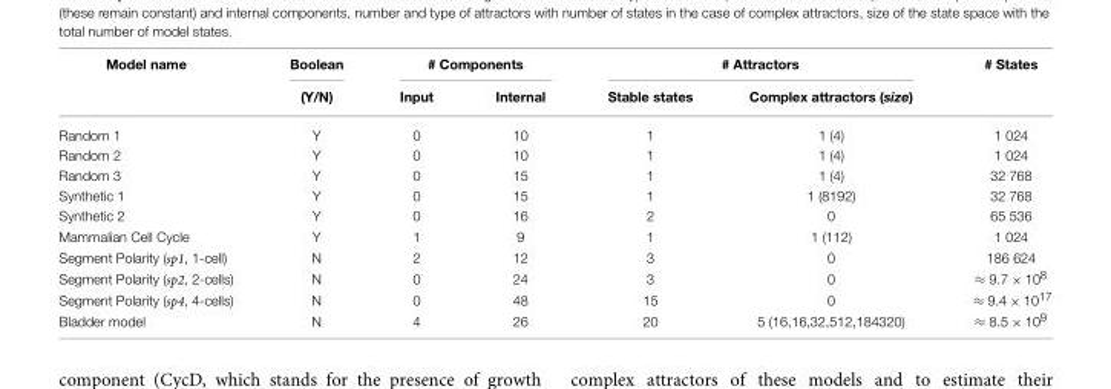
<table><thead><tr><td rowspan="2">Model name</td><td rowspan="2">Boolean (Y/N)</td><td colspan="2"># Components</td><td colspan="2"># Attractors</td><td rowspan="2"># States</td></tr><tr><td>Input</td><td>Internal</td><td>Stable states</td><td>Complex attractors (size)</td></tr></thead><tbody><tr><td>Random 1</td><td>Y</td><td>0</td><td>10</td><td>1</td><td>1 (4)</td><td>1 024</td></tr><tr><td>Random 2</td><td>Y</td><td>0</td><td>10</td><td>1</td><td>1 (4)</td><td>1 024</td></tr><tr><td>Random 3</td><td>Y</td><td>0</td><td>15</td><td>1</td><td>1 (4)</td><td>32 768</td></tr><tr><td>Synthetic 1</td><td>Y</td><td>0</td><td>15</td><td>1</td><td>1 (8192)</td><td>32 768</td></tr><tr><td>Synthetic 2</td><td>Y</td><td>0</td><td>16</td><td>2</td><td>0</td><td>65 536</td></tr><tr><td>Mammalian Cell Cycle</td><td>Y</td><td>1</td><td>9</td><td>1</td><td>1 (112)</td><td>1 024</td></tr><tr><td>Segment Polarity (sp1, 1-cell)</td><td>N</td><td>2</td><td>12</td><td>3</td><td>0</td><td>186 624</td></tr><tr><td>Segment Polarity (sp2, 2-cells)</td><td>N</td><td>0</td><td>24</td><td>3</td><td>0</td><td>≈ 9.7 × 10<sup>8</sup></td></tr><tr><td>Segment Polarity (sp4, 4-cells)</td><td>N</td><td>0</td><td>48</td><td>15</td><td>0</td><td>≈ 9.4 × 10<sup>17</sup></td></tr><tr><td>Bladder model</td><td>N</td><td>4</td><td>26</td><td>20</td><td>5 (16,16,32,512,184320)</td><td>≈ 8.5 × 10<sup>9</sup></td></tr></tbody></table>